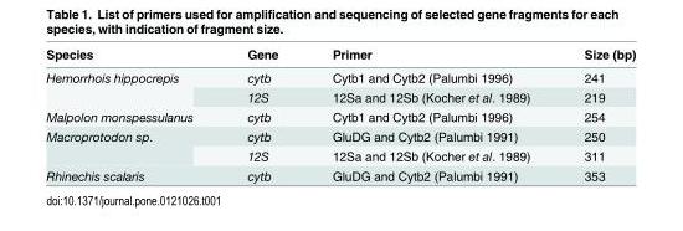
<table><thead><tr><td>Species</td><td>Gene</td><td>Primer</td><td>Size (bp)</td></tr></thead><tbody><tr><td rowspan="2">Hemorrhois hippocrepis</td><td>cytb</td><td>Cytb1 and Cytb2 (Palumbi 1996)</td><td>241</td></tr><tr><td>12S</td><td>12Sa and 12Sb (Kocher et al. 1989)</td><td>219</td></tr><tr><td>Malpolon monspessulanus</td><td>cytb</td><td>Cytb1 and Cytb2 (Palumbi 1996)</td><td>254</td></tr><tr><td rowspan="2">Macroprotodon sp.</td><td>cytb</td><td>GluDG and Cytb2 (Palumbi 1991)</td><td>250</td></tr><tr><td>12S</td><td>12Sa and 12Sb (Kocher et al. 1989)</td><td>311</td></tr><tr><td>Rhinechis scalaris</td><td>cytb</td><td>GluDG and Cytb2 (Palumbi 1991)</td><td>353</td></tr></tbody></table>